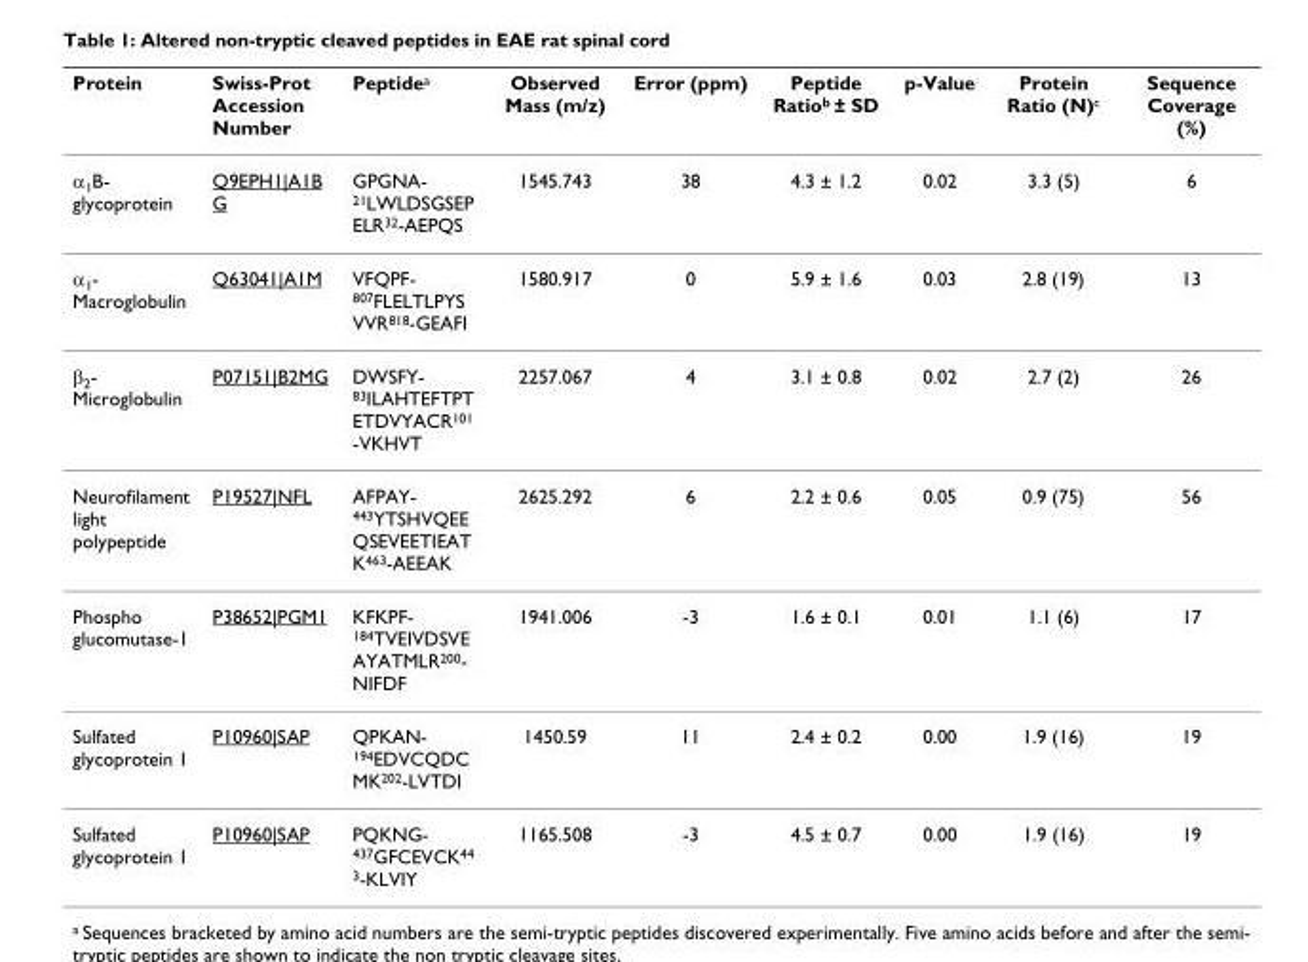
<table><thead><tr><td>Protein</td><td>Swiss-Prot Accession Number</td><td>Peptide<sup>a</sup></td><td>Observed Mass (m/z)</td><td>Error (ppm)</td><td>Peptide Ratio<sup>b</sup> ± SD</td><td>p-Value</td><td>Protein Ratio (N)<sup>c</sup></td><td>Sequence Coverage (%)</td></tr></thead><tbody><tr><td>α<sub>1</sub>B- glycoprotein</td><td>Q9EPH1|A1B G</td><td>GPGNA- <sup>21</sup>LWLDSGSEP ELR<sup>32</sup>-AEPQS</td><td>1545.743</td><td>38</td><td>4.3 ± 1.2</td><td>0.02</td><td>3.3 (5)</td><td>6</td></tr><tr><td>α<sub>1</sub>- Macroglobulin</td><td>Q63041|A1M</td><td>VFQPF- <sup>807</sup>FLELTLPYS VVR<sup>818</sup>-GEAFI</td><td>1580.917</td><td>0</td><td>5.9 ± 1.6</td><td>0.03</td><td>2.8 (19)</td><td>13</td></tr><tr><td>β<sub>2</sub>- Microglobulin</td><td>P07151|B2MG</td><td>DWSFY- <sup>83</sup>ILAHTEFTPT ETDVYACR<sup>101</sup> -VKHVT</td><td>2257.067</td><td>4</td><td>3.1 ± 0.8</td><td>0.02</td><td>2.7 (2)</td><td>26</td></tr><tr><td>Neurofilament light polypeptide</td><td>P19527|NFL</td><td>AFPAY- <sup>443</sup>YTSHVQEE QSEVEETIEAT K<sup>463</sup>-AEEAK</td><td>2625.292</td><td>6</td><td>2.2 ± 0.6</td><td>0.05</td><td>0.9 (75)</td><td>56</td></tr><tr><td>Phospho glucomutase-1</td><td>P38652|PGM1</td><td>KFKPF- <sup>184</sup>TVEIVDSVE AYATMLR<sup>200</sup>- NIFDF</td><td>1941.006</td><td>-3</td><td>1.6 ± 0.1</td><td>0.01</td><td>1.1 (6)</td><td>17</td></tr><tr><td>Sulfated glycoprotein 1</td><td>P10960|SAP</td><td>QPKAN- <sup>194</sup>EDVCQDC MK<sup>202</sup>-LVTDI</td><td>1450.59</td><td>11</td><td>2.4 ± 0.2</td><td>0.00</td><td>1.9 (16)</td><td>19</td></tr><tr><td>Sulfated glycoprotein 1</td><td>P10960|SAP</td><td>PQKNG- <sup>437</sup>GFCEVCK<sup>44 3</sup>-KLVIY</td><td>1165.508</td><td>-3</td><td>4.5 ± 0.7</td><td>0.00</td><td>1.9 (16)</td><td>19</td></tr></tbody></table>